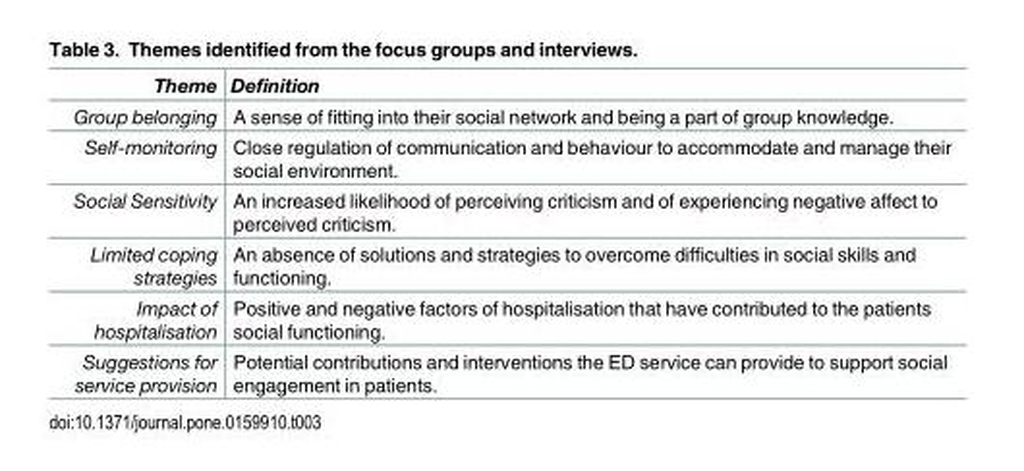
<table><thead><tr><td>Theme</td><td>Definition</td></tr></thead><tbody><tr><td>Group belonging</td><td>A sense of fitting into their social network and being a part of group knowledge.</td></tr><tr><td>Self-monitoring</td><td>Close regulation of communication and behaviour to accommodate and manage their social environment.</td></tr><tr><td>Social Sensitivity</td><td>An increased likelihood of perceiving criticism and of experiencing negative affect to perceived criticism.</td></tr><tr><td>Limited coping strategies</td><td>An absence of solutions and strategies to overcome difficulties in social skills and functioning.</td></tr><tr><td>Impact of hospitalisation</td><td>Positive and negative factors of hospitalisation that have contributed to the patients social functioning.</td></tr><tr><td>Suggestions for service provision</td><td>Potential contributions and interventions the ED service can provide to support social engagement in patients.</td></tr></tbody></table>